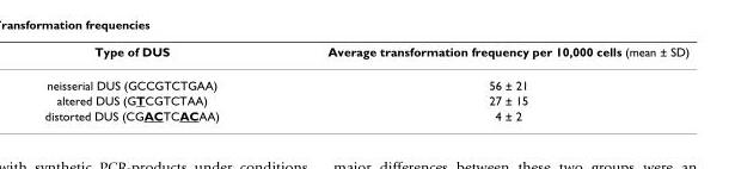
<table><thead><tr><td>Type of DUS</td><td>Average transformation frequency per 10,000 cells (mean ± SD)</td></tr></thead><tbody><tr><td>neisserial DUS (GCCGTCTGAA)</td><td>56 ± 21</td></tr><tr><td>altered DUS (GTCGTCTAA)</td><td>27 ± 15</td></tr><tr><td>distorted DUS (CGACTCACAA)</td><td>4 ± 2</td></tr></tbody></table>